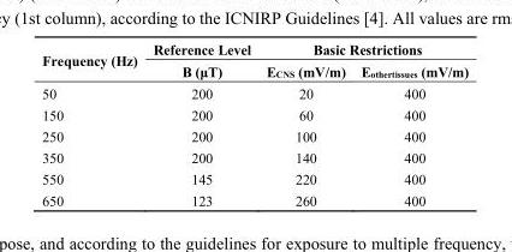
<table><thead><tr><td rowspan="2">Frequency (Hz)</td><td rowspan="2">Reference Level B (μT)</td><td colspan="2">Basic Restrictions</td></tr><tr><td>E<sub>CNS</sub> (mV/m)</td><td>E<sub>othertissues</sub> (mV/m)</td></tr></thead><tbody><tr><td>50</td><td>200</td><td>20</td><td>400</td></tr><tr><td>150</td><td>200</td><td>60</td><td>400</td></tr><tr><td>250</td><td>200</td><td>100</td><td>400</td></tr><tr><td>350</td><td>200</td><td>140</td><td>400</td></tr><tr><td>550</td><td>145</td><td>220</td><td>400</td></tr><tr><td>650</td><td>123</td><td>260</td><td>400</td></tr></tbody></table>